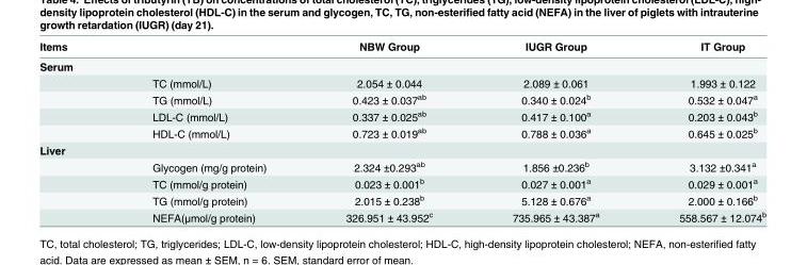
<table><thead><tr><td>Items</td><td></td><td>NBW Group</td><td>IUGR Group</td><td>IT Group</td></tr></thead><tbody><tr><td colspan="5">Serum</td></tr><tr><td></td><td>TC (mmol/L)</td><td>2.054 ± 0.044</td><td>2.089 ± 0.061</td><td>1.993 ± 0.122</td></tr><tr><td></td><td>TG (mmol/L)</td><td>0.423 ± 0.037<sup>ab</sup></td><td>0.340 ± 0.024<sup>b</sup></td><td>0.532 ± 0.047<sup>a</sup></td></tr><tr><td></td><td>LDL-C (mmol/L)</td><td>0.337 ± 0.025<sup>ab</sup></td><td>0.417 ± 0.100<sup>a</sup></td><td>0.203 ± 0.043<sup>b</sup></td></tr><tr><td></td><td>HDL-C (mmol/L)</td><td>0.723 ± 0.019<sup>ab</sup></td><td>0.788 ± 0.036<sup>a</sup></td><td>0.645 ± 0.025<sup>b</sup></td></tr><tr><td colspan="5">Liver</td></tr><tr><td></td><td>Glycogen (mg/g protein)</td><td>2.324 ±0.293<sup>ab</sup></td><td>1.856 ±0.236<sup>b</sup></td><td>3.132 ±0.341<sup>a</sup></td></tr><tr><td></td><td>TC (mmol/g protein)</td><td>0.023 ± 0.001<sup>b</sup></td><td>0.027 ± 0.001<sup>a</sup></td><td>0.029 ± 0.001<sup>a</sup></td></tr><tr><td></td><td>TG (mmol/g protein)</td><td>2.015 ± 0.238<sup>b</sup></td><td>5.128 ± 0.676<sup>a</sup></td><td>2.000 ± 0.166<sup>b</sup></td></tr><tr><td></td><td>NEFA(μmol/g protein)</td><td>326.951 ± 43.952<sup>c</sup></td><td>735.965 ± 43.387<sup>a</sup></td><td>558.567 ± 12.074<sup>b</sup></td></tr></tbody></table>